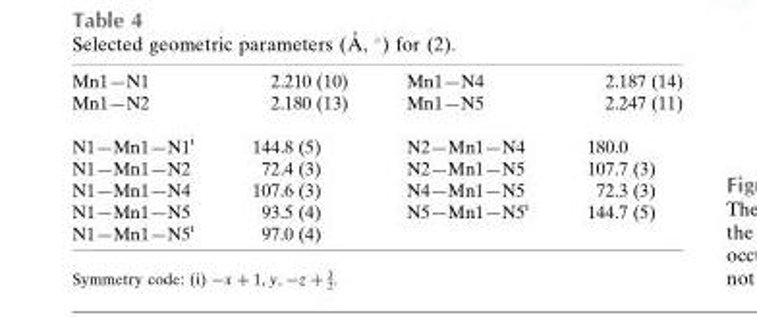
<table><tbody><tr><td>Mn1—N1</td><td>2.210 (10)</td><td>Mn1—N4</td><td>2.187 (14)</td></tr><tr><td>Mn1—N2</td><td>2.180 (13)</td><td>Mn1—N5</td><td>2.247 (11)</td></tr><tr><td>N1—Mn1—N1<sup>i</sup></td><td>144.8 (5)</td><td>N2—Mn1—N4</td><td>180.0</td></tr><tr><td>N1—Mn1—N2</td><td>72.4 (3)</td><td>N2—Mn1—N5</td><td>107.7 (3)</td></tr><tr><td>N1—Mn1—N4</td><td>107.6 (3)</td><td>N4—Mn1—N5</td><td>72.3 (3)</td></tr><tr><td>N1—Mn1—N5</td><td>93.5 (4)</td><td>N5—Mn1—N5<sup>i</sup></td><td>144.7 (5)</td></tr><tr><td>N1—Mn1—N5<sup>i</sup></td><td>97.0 (4)</td><td></td><td></td></tr></tbody></table>